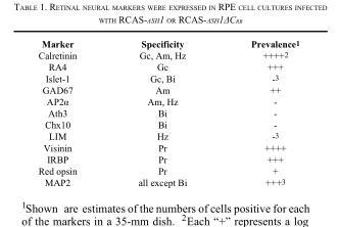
<table><thead><tr><td>Marker</td><td>Specificity</td><td>Prevalence<sup>1</sup></td></tr></thead><tbody><tr><td>Calretinin</td><td>Gc, Am, Hz</td><td>++++<sup>2</sup></td></tr><tr><td>RA4</td><td>Gc</td><td>+++</td></tr><tr><td>Islet-1</td><td>Gc, Bi</td><td>-<sup>3</sup></td></tr><tr><td>GAD67</td><td>Am</td><td>++</td></tr><tr><td>AP2α</td><td>Am, Hz</td><td>-</td></tr><tr><td>Ath3</td><td>Bi</td><td>-</td></tr><tr><td>Chx10</td><td>Bi</td><td>-</td></tr><tr><td>LIM</td><td>Hz</td><td>-<sup>3</sup></td></tr><tr><td>Visinin</td><td>Pr</td><td>++++</td></tr><tr><td>IRBP</td><td>Pr</td><td>+++</td></tr><tr><td>Red opsin</td><td>Pr</td><td>+</td></tr><tr><td>MAP2</td><td>all except Bi</td><td>+++<sup>3</sup></td></tr></tbody></table>